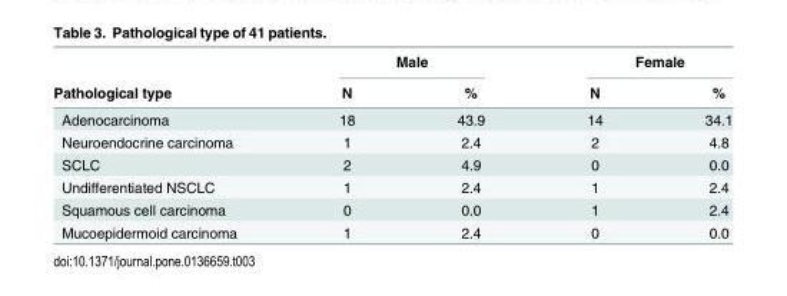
<table><thead><tr><td rowspan="2">Pathological type</td><td colspan="2">Male</td><td colspan="2">Female</td></tr><tr><td>N</td><td>%</td><td>N</td><td>%</td></tr></thead><tbody><tr><td>Adenocarcinoma</td><td>18</td><td>43.9</td><td>14</td><td>34.1</td></tr><tr><td>Neuroendocrine carcinoma</td><td>1</td><td>2.4</td><td>2</td><td>4.8</td></tr><tr><td>SCLC</td><td>2</td><td>4.9</td><td>0</td><td>0.0</td></tr><tr><td>Undifferentiated NSCLC</td><td>1</td><td>2.4</td><td>1</td><td>2.4</td></tr><tr><td>Squamous cell carcinoma</td><td>0</td><td>0.0</td><td>1</td><td>2.4</td></tr><tr><td>Mucoepidermoid carcinoma</td><td>1</td><td>2.4</td><td>0</td><td>0.0</td></tr></tbody></table>